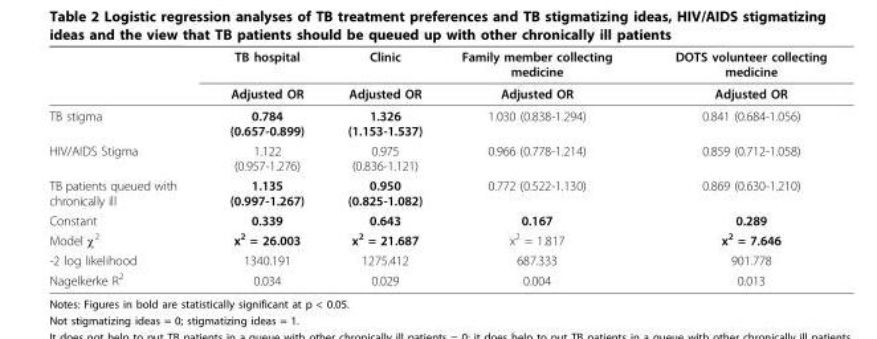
<table><thead><tr><td rowspan="2"></td><td rowspan="2">TB hospital Adjusted OR</td><td rowspan="2">Clinic Adjusted OR</td><td rowspan="2">Family member collecting medicine Adjusted OR</td><td rowspan="2">DOTS volunteer collecting medicine Adjusted OR</td></tr><tr></tr></thead><tbody><tr><td>TB stigma</td><td>0.784 (0.657-0.899)</td><td>1.326 (1.153-1.537)</td><td>1.030 (0.838-1.294)</td><td>0.841 (0.684-1.056)</td></tr><tr><td>HIV/AIDS Stigma</td><td>1.122 (0.957-1.276)</td><td>0.975 (0.836-1.121)</td><td>0.966 (0.778-1.214)</td><td>0.859 (0.712-1.058)</td></tr><tr><td>TB patients queued with chronically ill</td><td>1.135 (0.997-1.267)</td><td>0.950 (0.825-1.082)</td><td>0.772 (0.522-1.130)</td><td>0.869 (0.630-1.210)</td></tr><tr><td>Constant</td><td>0.339</td><td>0.643</td><td>0.167</td><td>0.289</td></tr><tr><td>Model χ<sup>2</sup></td><td>x<sup>2</sup> = 26.003</td><td>x<sup>2</sup> = 21.687</td><td>x<sup>2</sup> = 1.817</td><td>x<sup>2</sup> = 7.646</td></tr><tr><td>-2 log likelihood</td><td>1340.191</td><td>1275.412</td><td>687.333</td><td>901.778</td></tr><tr><td>Nagelkerke R<sup>2</sup></td><td>0.034</td><td>0.029</td><td>0.004</td><td>0.013</td></tr></tbody></table>